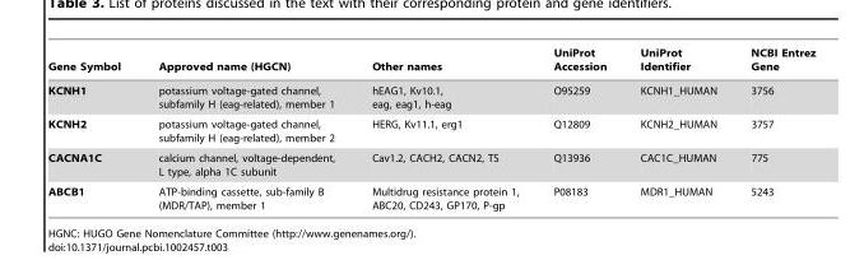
<table><thead><tr><td>Gene Symbol</td><td>Approved name (HGCN)</td><td>Other names</td><td>UniProt Accession</td><td>UniProt Identifier</td><td>NCBI Entrez Gene</td></tr></thead><tbody><tr><td>KCNH1</td><td>potassium voltage-gated channel, subfamily H (eag-related), member 1</td><td>hEAG1, Kv10.1, eag, eag1, h-eag</td><td>O95259</td><td>KCNH1_HUMAN</td><td>3756</td></tr><tr><td>KCNH2</td><td>potassium voltage-gated channel, subfamily H (eag-related), member 2</td><td>HERG, Kv11.1, erg1</td><td>Q12809</td><td>KCNH2_HUMAN</td><td>3757</td></tr><tr><td>CACNA1C</td><td>calcium channel, voltage-dependent, L type, alpha 1C subunit</td><td>Cav1.2, CACH2, CACN2, TS</td><td>Q13936</td><td>CAC1C_HUMAN</td><td>775</td></tr><tr><td>ABCB1</td><td>ATP-binding cassette, sub-family B (MDR/TAP), member 1</td><td>Multidrug resistance protein 1, ABC20, CD243, GP170, P-gp</td><td>P08183</td><td>MDR1_HUMAN</td><td>5243</td></tr></tbody></table>